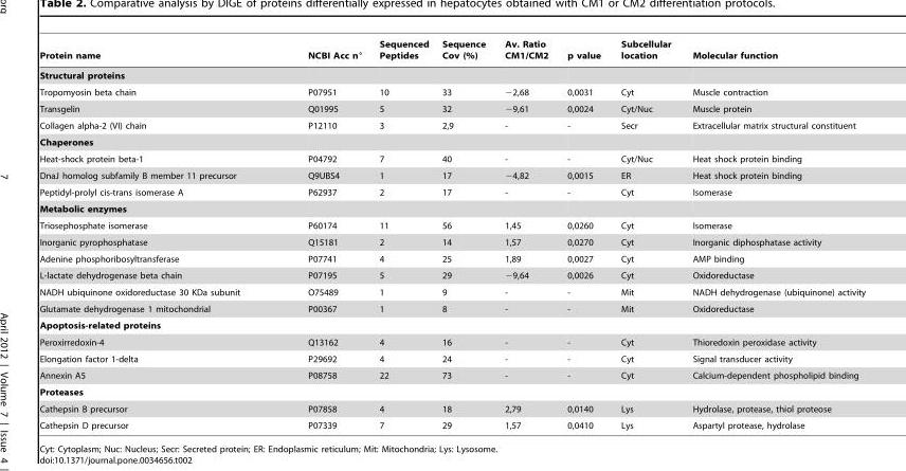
<table><thead><tr><td>Protein name</td><td>NCBI Acc n°</td><td>Sequenced Peptides</td><td>Sequence Cov (%)</td><td>Av. Ratio CM1/CM2</td><td>p value</td><td>Subcellular location</td><td>Molecular function</td></tr></thead><tbody><tr><td colspan="8">Structural proteins</td></tr><tr><td>Tropomyosin beta chain</td><td>P07951</td><td>10</td><td>33</td><td>−2,68</td><td>0,0031</td><td>Cyt</td><td>Muscle contraction</td></tr><tr><td>Transgelin</td><td>Q01995</td><td>5</td><td>32</td><td>−9,61</td><td>0,0024</td><td>Cyt/Nuc</td><td>Muscle protein</td></tr><tr><td>Collagen alpha-2 (VI) chain</td><td>P12110</td><td>3</td><td>2,9</td><td>-</td><td>-</td><td>Secr</td><td>Extracellular matrix structural constituent</td></tr><tr><td colspan="8">Chaperones</td></tr><tr><td>Heat-shock protein beta-1</td><td>P04792</td><td>7</td><td>40</td><td>-</td><td>-</td><td>Cyt/Nuc</td><td>Heat shock protein binding</td></tr><tr><td>DnaJ homolog subfamily B member 11 precursor</td><td>Q9UBS4</td><td>1</td><td>17</td><td>−4,82</td><td>0,0015</td><td>ER</td><td>Heat shock protein binding</td></tr><tr><td>Peptidyl-prolyl cis-trans isomerase A</td><td>P62937</td><td>2</td><td>17</td><td>-</td><td>-</td><td>Cyt</td><td>Isomerase</td></tr><tr><td colspan="8">Metabolic enzymes</td></tr><tr><td>Triosephosphate isomerase</td><td>P60174</td><td>11</td><td>56</td><td>1,45</td><td>0,0260</td><td>Cyt</td><td>Isomerase</td></tr><tr><td>Inorganic pyrophosphatase</td><td>Q15181</td><td>2</td><td>14</td><td>1,57</td><td>0,0270</td><td>Cyt</td><td>Inorganic diphosphatase activity</td></tr><tr><td>Adenine phosphoribosyltransferase</td><td>P07741</td><td>4</td><td>25</td><td>1,89</td><td>0,0027</td><td>Cyt</td><td>AMP binding</td></tr><tr><td>L-lactate dehydrogenase beta chain</td><td>P07195</td><td>5</td><td>29</td><td>−9,64</td><td>0,0026</td><td>Cyt</td><td>Oxidoreductase</td></tr><tr><td>NADH ubiquinone oxidoreductase 30 KDa subunit</td><td>O75489</td><td>1</td><td>9</td><td>-</td><td>-</td><td>Mit</td><td>NADH dehydrogenase (ubiquinone) activity</td></tr><tr><td>Glutamate dehydrogenase 1 mitochondrial</td><td>P00367</td><td>1</td><td>8</td><td>-</td><td>-</td><td>Mit</td><td>Oxidoreductase</td></tr><tr><td colspan="8">Apoptosis-related proteins</td></tr><tr><td>Peroxirredoxin-4</td><td>Q13162</td><td>4</td><td>16</td><td>-</td><td>-</td><td>Cyt</td><td>Thioredoxin peroxidase activity</td></tr><tr><td>Elongation factor 1-delta</td><td>P29692</td><td>4</td><td>24</td><td>-</td><td>-</td><td>Cyt</td><td>Signal transducer activity</td></tr><tr><td>Annexin A5</td><td>P08758</td><td>22</td><td>73</td><td>-</td><td>-</td><td>Cyt</td><td>Calcium-dependent phospholipid binding</td></tr><tr><td colspan="8">Proteases</td></tr><tr><td>Cathepsin B precursor</td><td>P07858</td><td>4</td><td>18</td><td>2,79</td><td>0,0140</td><td>Lys</td><td>Hydrolase, protease, thiol proteose</td></tr><tr><td>Cathepsin D precursor</td><td>P07339</td><td>7</td><td>29</td><td>1,57</td><td>0,0410</td><td>Lys</td><td>Aspartyl protease, hydrolase</td></tr></tbody></table>